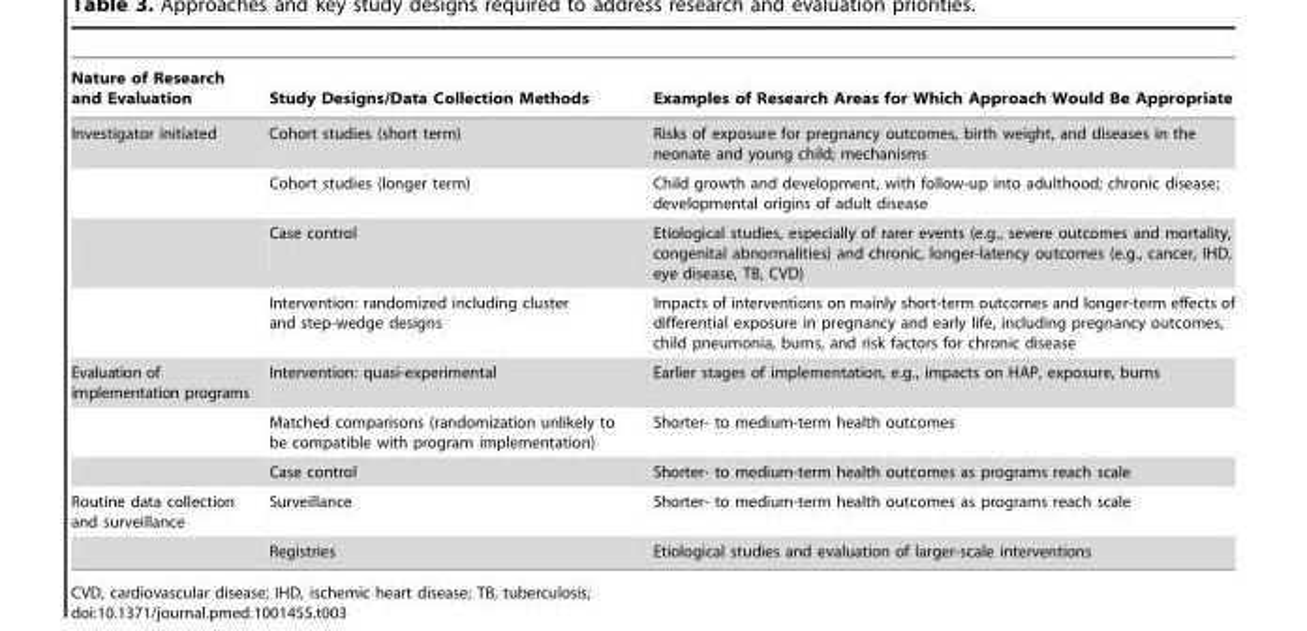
<table><thead><tr><td>Nature of Research and Evaluation</td><td>Study Designs/Data Collection Methods</td><td>Examples of Research Areas for Which Approach Would Be Appropriate</td></tr></thead><tbody><tr><td rowspan="4">Investigator initiated</td><td>Cohort studies (short term)</td><td>Risks of exposure for pregnancy outcomes, birth weight, and diseases in the neonate and young child; mechanisms</td></tr><tr><td>Cohort studies (longer term)</td><td>Child growth and development, with follow-up into adulthood; chronic disease; developmental origins of adult disease</td></tr><tr><td>Case control</td><td>Etiological studies, especially of rarer events (e.g., severe outcomes and mortality, congenital abnormalities) and chronic, longer-latency outcomes (e.g., cancer, IHD, eye disease, TB, CVD)</td></tr><tr><td>Intervention: randomized including cluster and step-wedge designs</td><td>Impacts of interventions on mainly short-term outcomes and longer-term effects of differential exposure in pregnancy and early life, including pregnancy outcomes, child pneumonia, burns, and risk factors for chronic disease</td></tr><tr><td rowspan="3">Evaluation of implementation programs</td><td>Intervention: quasi-experimental</td><td>Earlier stages of implementation, e.g., impacts on HAP, exposure, burns</td></tr><tr><td>Matched comparisons (randomization unlikely to be compatible with program implementation)</td><td>Shorter- to medium-term health outcomes</td></tr><tr><td>Case control</td><td>Shorter- to medium-term health outcomes as programs reach scale</td></tr><tr><td rowspan="2">Routine data collection and surveillance</td><td>Surveillance</td><td>Shorter- to medium-term health outcomes as programs reach scale</td></tr><tr><td>Registries</td><td>Etiological studies and evaluation of larger-scale interventions</td></tr></tbody></table>